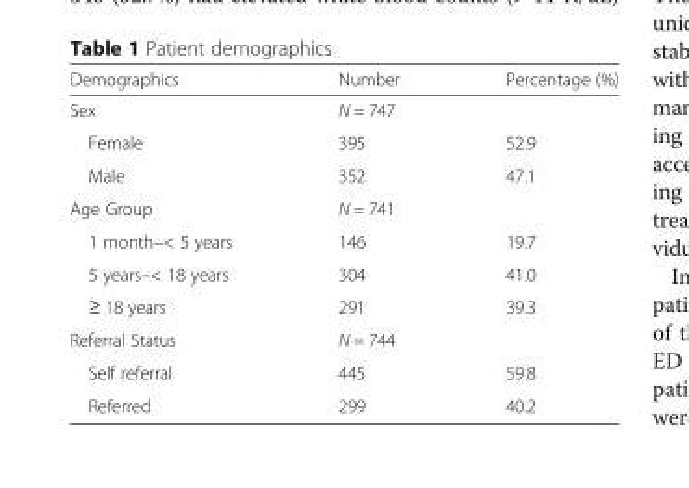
<table><thead><tr><td>Demographics</td><td>Number</td><td>Percentage (%)</td></tr></thead><tbody><tr><td>Sex</td><td>N = 747</td><td></td></tr><tr><td>Female</td><td>395</td><td>52.9</td></tr><tr><td>Male</td><td>352</td><td>47.1</td></tr><tr><td>Age Group</td><td>N = 741</td><td></td></tr><tr><td>1 month–&lt; 5 years</td><td>146</td><td>19.7</td></tr><tr><td>5 years–&lt; 18 years</td><td>304</td><td>41.0</td></tr><tr><td>≥ 18 years</td><td>291</td><td>39.3</td></tr><tr><td>Referral Status</td><td>N = 744</td><td></td></tr><tr><td>Self referral</td><td>445</td><td>59.8</td></tr><tr><td>Referred</td><td>299</td><td>40.2</td></tr></tbody></table>